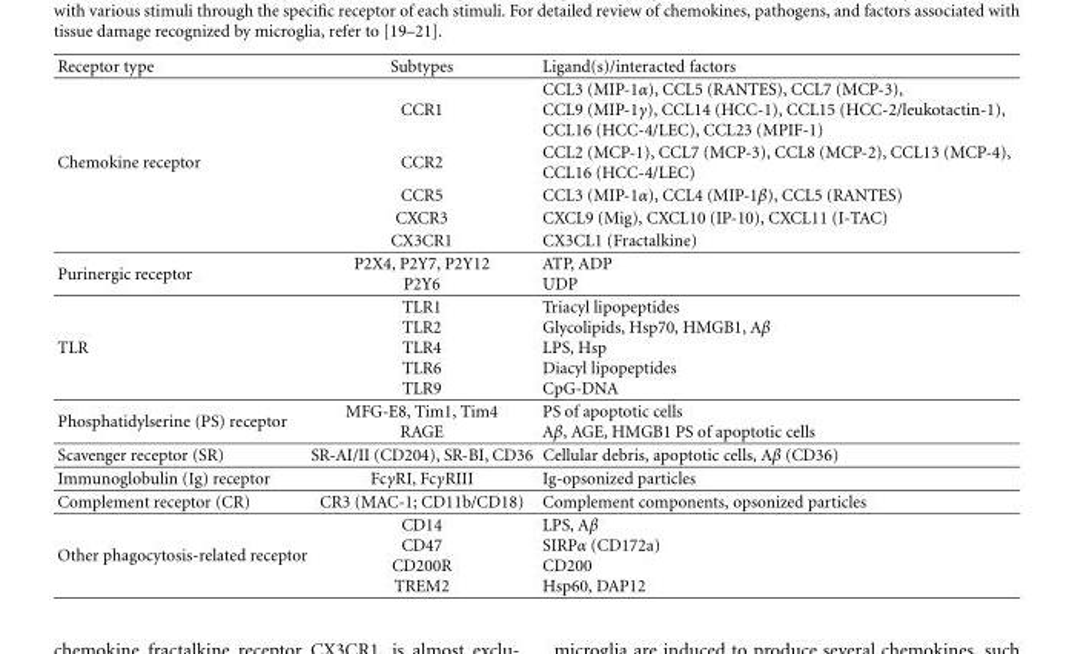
<table><thead><tr><td>Receptor type</td><td>Subtypes</td><td>Ligand(s)/interacted factors</td></tr></thead><tbody><tr><td></td><td>CCR1</td><td>CCL3 (MIP-1α), CCL5 (RANTES), CCL7 (MCP-3), CCL9 (MIP-1γ), CCL14 (HCC-1), CCL15 (HCC-2/leukotactin-1), CCL16 (HCC-4/LEC), CCL23 (MPIF-1)</td></tr><tr><td rowspan="4">Chemokine receptor</td><td>CCR2</td><td>CCL2 (MCP-1), CCL7 (MCP-3), CCL8 (MCP-2), CCL13 (MCP-4), CCL16 (HCC-4/LEC)</td></tr><tr><td>CCR5</td><td>CCL3 (MIP-1α), CCL4 (MIP-1β), CCL5 (RANTES)</td></tr><tr><td>CXCR3</td><td>CXCL9 (Mig), CXCL10 (IP-10), CXCL11 (I-TAC)</td></tr><tr><td>CX3CR1</td><td>CX3CL1 (Fractalkine)</td></tr><tr><td>Purinergic receptor</td><td>P2X4, P2Y7, P2Y12 P2Y6</td><td>ATP, ADP UDP</td></tr><tr><td>TLR</td><td>TLR1 TLR2 TLR4 TLR6 TLR9</td><td>Triacyl lipopeptides Glycolipids, Hsp70, HMGB1, Aβ LPS, Hsp Diacyl lipopeptides CpG-DNA</td></tr><tr><td>Phosphatidylserine (PS) receptor</td><td>MFG-E8, Tim1, Tim4 RAGE</td><td>PS of apoptotic cells Aβ, AGE, HMGB1 PS of apoptotic cells</td></tr><tr><td>Scavenger receptor (SR)</td><td>SR-AI/II (CD204), SR-BI, CD36</td><td>Cellular debris, apoptotic cells, Aβ (CD36)</td></tr><tr><td>Immunoglobulin (Ig) receptor</td><td>FcγRI, FcγRIII</td><td>Ig-opsonized particles</td></tr><tr><td>Complement receptor (CR)</td><td>CR3 (MAC-1; CD11b/CD18)</td><td>Complement components, opsonized particles</td></tr><tr><td>Other phagocytosis-related receptor</td><td>CD14 CD47 CD200R TREM2</td><td>LPS, Aβ SIRPα (CD172a) CD200 Hsp60, DAP12</td></tr></tbody></table>